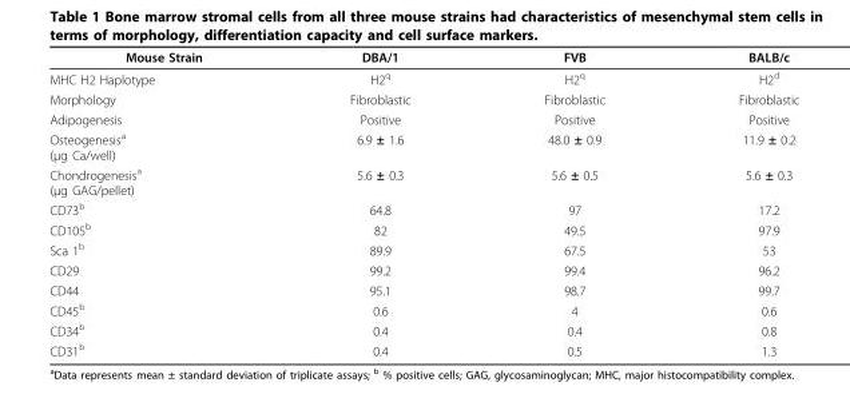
<table><thead><tr><td>Mouse Strain</td><td>DBA/1</td><td>FVB</td><td>BALB/c</td></tr></thead><tbody><tr><td>MHC H2 Haplotype</td><td>H2<sup>q</sup></td><td>H2<sup>q</sup></td><td>H2<sup>d</sup></td></tr><tr><td>Morphology</td><td>Fibroblastic</td><td>Fibroblastic</td><td>Fibroblastic</td></tr><tr><td>Adipogenesis</td><td>Positive</td><td>Positive</td><td>Positive</td></tr><tr><td>Osteogenesis<sup>a</sup> (μg Ca/well)</td><td>6.9 ± 1.6</td><td>48.0 ± 0.9</td><td>11.9 ± 0.2</td></tr><tr><td>Chondrogenesis<sup>a</sup> (μg GAG/pellet)</td><td>5.6 ± 0.3</td><td>5.6 ± 0.5</td><td>5.6 ± 0.3</td></tr><tr><td>CD73<sup>b</sup></td><td>64.8</td><td>97</td><td>17.2</td></tr><tr><td>CD105<sup>b</sup></td><td>82</td><td>49.5</td><td>97.9</td></tr><tr><td>Sca 1<sup>b</sup></td><td>89.9</td><td>67.5</td><td>53</td></tr><tr><td>CD29</td><td>99.2</td><td>99.4</td><td>96.2</td></tr><tr><td>CD44</td><td>95.1</td><td>98.7</td><td>99.7</td></tr><tr><td>CD45<sup>b</sup></td><td>0.6</td><td>4</td><td>0.6</td></tr><tr><td>CD34<sup>b</sup></td><td>0.4</td><td>0.4</td><td>0.8</td></tr><tr><td>CD31<sup>b</sup></td><td>0.4</td><td>0.5</td><td>1.3</td></tr></tbody></table>